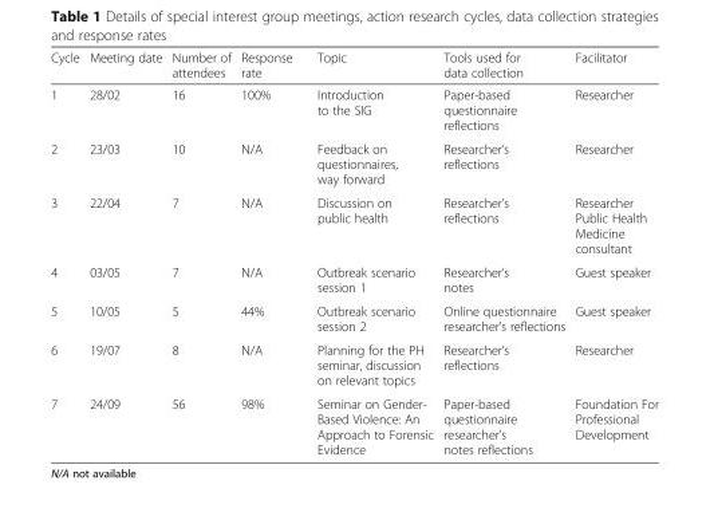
<table><thead><tr><td>Cycle</td><td>Meeting date</td><td>Number of attendees</td><td>Response rate</td><td>Topic</td><td>Tools used for data collection</td><td>Facilitator</td></tr></thead><tbody><tr><td>1</td><td>28/02</td><td>16</td><td>100%</td><td>Introduction to the SIG</td><td>Paper-based questionnaire reflections</td><td>Researcher</td></tr><tr><td>2</td><td>23/03</td><td>10</td><td>N/A</td><td>Feedback on questionnaires, way forward</td><td>Researcher’s reflections</td><td>Researcher</td></tr><tr><td>3</td><td>22/04</td><td>7</td><td>N/A</td><td>Discussion on public health</td><td>Researcher’s reflections</td><td>Researcher Public Health Medicine consultant</td></tr><tr><td>4</td><td>03/05</td><td>7</td><td>N/A</td><td>Outbreak scenario session 1</td><td>Researcher’s notes</td><td>Guest speaker</td></tr><tr><td>5</td><td>10/05</td><td>5</td><td>44%</td><td>Outbreak scenario session 2</td><td>Online questionnaire researcher’s reflections</td><td>Guest speaker</td></tr><tr><td>6</td><td>19/07</td><td>8</td><td>N/A</td><td>Planning for the PH seminar, discussion on relevant topics</td><td>Researcher’s reflections</td><td>Researcher</td></tr><tr><td>7</td><td>24/09</td><td>56</td><td>98%</td><td>Seminar on Gender- Based Violence: An Approach to Forensic Evidence</td><td>Paper-based questionnaire researcher’s notes reflections</td><td>Foundation For Professional Development</td></tr></tbody></table>